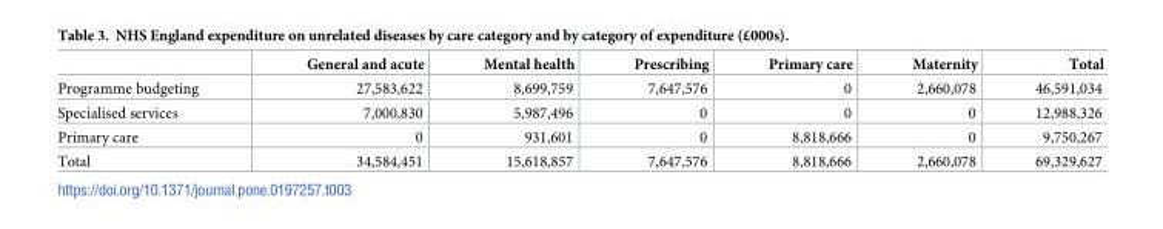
<table><thead><tr><td></td><td>General and acute</td><td>Mental health</td><td>Prescribing</td><td>Primary care</td><td>Maternity</td><td>Total</td></tr></thead><tbody><tr><td>Programme budgeting</td><td>27,583,622</td><td>8,699,759</td><td>7,647,576</td><td>0</td><td>2,660,078</td><td>46,591,034</td></tr><tr><td>Specialised services</td><td>7,000,830</td><td>5,987,496</td><td>0</td><td>0</td><td>0</td><td>12,988,326</td></tr><tr><td>Primary care</td><td>0</td><td>931,601</td><td>0</td><td>8,818,666</td><td>0</td><td>9,750,267</td></tr><tr><td>Total</td><td>34,584,451</td><td>15,618,857</td><td>7,647,576</td><td>8,818,666</td><td>2,660,078</td><td>69,329,627</td></tr></tbody></table>